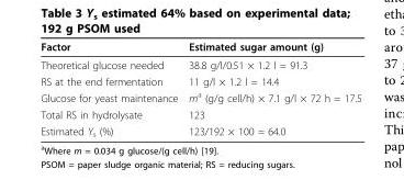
<table><thead><tr><td>Factor</td><td>Estimated sugar amount (g)</td></tr></thead><tbody><tr><td>Theoretical glucose needed</td><td>38.8 g/l/0.51 × 1.2 l = 91.3</td></tr><tr><td>RS at the end fermentation</td><td>11 g/l × 1.2 l = 14.4</td></tr><tr><td>Glucose for yeast maintenance</td><td>m<sup>a</sup> (g/g cell/h) × 7.1 g/l × 72 h = 17.5</td></tr><tr><td>Total RS in hydrolysate</td><td>123</td></tr><tr><td>Estimated Y<sub>s</sub> (%)</td><td>123/192 × 100 = 64.0</td></tr></tbody></table>